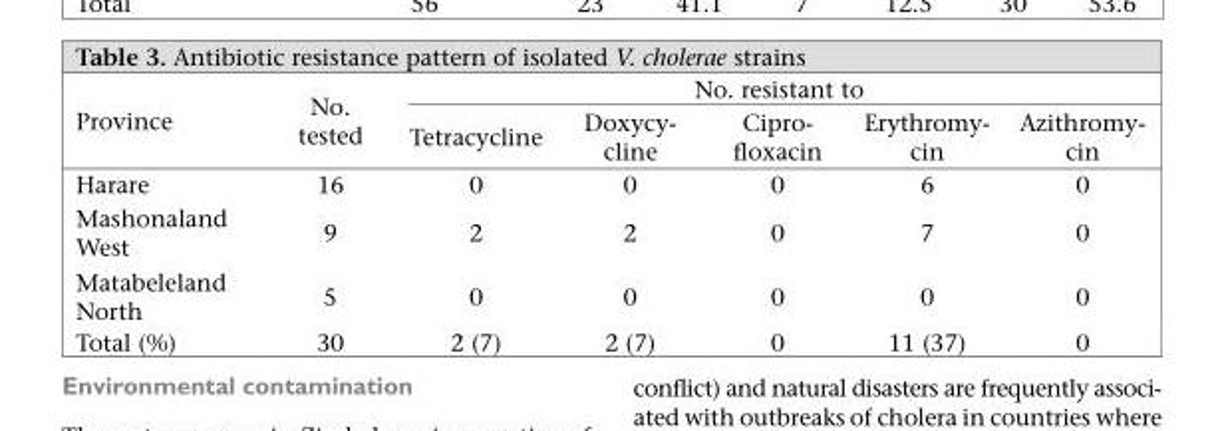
<table><thead><tr><td rowspan="2">Province</td><td rowspan="2">No. tested</td><td colspan="5">No. resistant to</td></tr><tr><td>Tetracycline</td><td>Doxycy- cline</td><td>Cipro- floxacin</td><td>Erythromy- cin</td><td>Azithromy- cin</td></tr></thead><tbody><tr><td>Harare</td><td>16</td><td>0</td><td>0</td><td>0</td><td>6</td><td>0</td></tr><tr><td>Mashonaland West</td><td>9</td><td>2</td><td>2</td><td>0</td><td>7</td><td>0</td></tr><tr><td>Matabeleland North</td><td>5</td><td>0</td><td>0</td><td>0</td><td>0</td><td>0</td></tr><tr><td>Total (%)</td><td>30</td><td>2 (7)</td><td>2 (7)</td><td>0</td><td>11 (37)</td><td>0</td></tr></tbody></table>